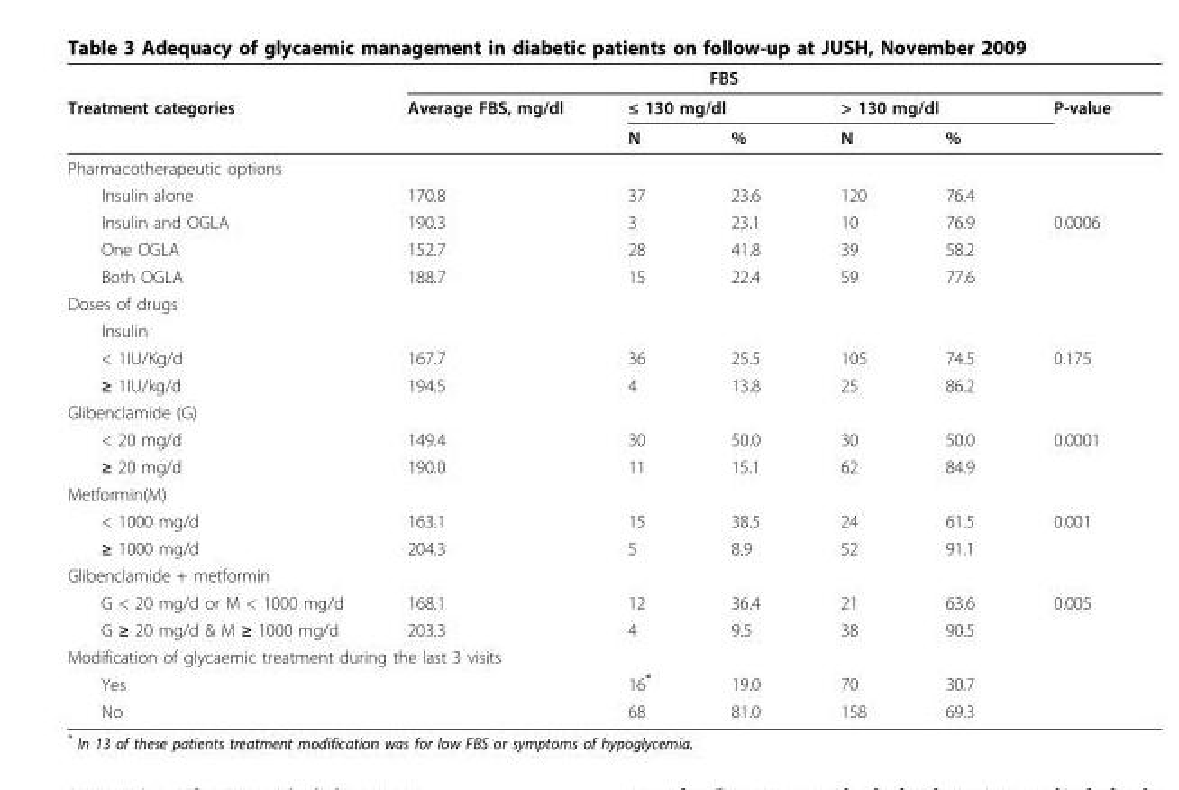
<table><thead><tr><td rowspan="3">Treatment categories</td><td colspan="5">FBS</td><td rowspan="3">P-value</td></tr><tr><td rowspan="2">Average FBS, mg/dl</td><td colspan="2">≤ 130 mg/dl</td><td colspan="2">&gt; 130 mg/dl</td></tr><tr><td>N</td><td>%</td><td>N</td><td>%</td></tr></thead><tbody><tr><td colspan="7">Pharmacotherapeutic options</td></tr><tr><td>Insulin alone</td><td>170.8</td><td>37</td><td>23.6</td><td>120</td><td>76.4</td><td></td></tr><tr><td>Insulin and OGLA</td><td>190.3</td><td>3</td><td>23.1</td><td>10</td><td>76.9</td><td>0.0006</td></tr><tr><td>One OGLA</td><td>152.7</td><td>28</td><td>41.8</td><td>39</td><td>58.2</td><td></td></tr><tr><td>Both OGLA</td><td>188.7</td><td>15</td><td>22.4</td><td>59</td><td>77.6</td><td></td></tr><tr><td colspan="7">Doses of drugs</td></tr><tr><td colspan="7">Insulin</td></tr><tr><td>&lt; 1IU/Kg/d</td><td>167.7</td><td>36</td><td>25.5</td><td>105</td><td>74.5</td><td>0.175</td></tr><tr><td>≥ 1IU/kg/d</td><td>194.5</td><td>4</td><td>13.8</td><td>25</td><td>86.2</td><td></td></tr><tr><td colspan="7">Glibenclamide (G)</td></tr><tr><td>&lt; 20 mg/d</td><td>149.4</td><td>30</td><td>50.0</td><td>30</td><td>50.0</td><td>0.0001</td></tr><tr><td>≥ 20 mg/d</td><td>190.0</td><td>11</td><td>15.1</td><td>62</td><td>84.9</td><td></td></tr><tr><td colspan="7">Metformin(M)</td></tr><tr><td>&lt; 1000 mg/d</td><td>163.1</td><td>15</td><td>38.5</td><td>24</td><td>61.5</td><td>0.001</td></tr><tr><td>≥ 1000 mg/d</td><td>204.3</td><td>5</td><td>8.9</td><td>52</td><td>91.1</td><td></td></tr><tr><td colspan="7">Glibenclamide + metformin</td></tr><tr><td>G &lt; 20 mg/d or M &lt; 1000 mg/d</td><td>168.1</td><td>12</td><td>36.4</td><td>21</td><td>63.6</td><td>0.005</td></tr><tr><td>G ≥ 20 mg/d &amp; M ≥ 1000 mg/d</td><td>203.3</td><td>4</td><td>9.5</td><td>38</td><td>90.5</td><td></td></tr><tr><td colspan="7">Modification of glycaemic treatment during the last 3 visits</td></tr><tr><td colspan="2">Yes</td><td>16*</td><td>19.0</td><td>70</td><td>30.7</td><td></td></tr><tr><td colspan="2">No</td><td>68</td><td>81.0</td><td>158</td><td>69.3</td><td></td></tr></tbody></table>